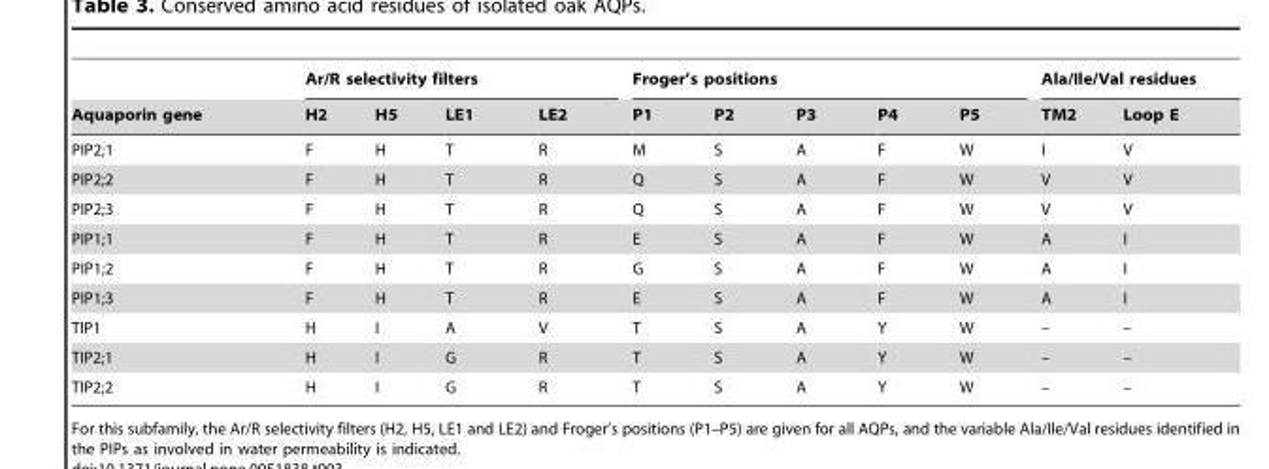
<table><thead><tr><td rowspan="2">Aquaporin gene</td><td colspan="4">Ar/R selectivity filters</td><td colspan="5">Froger’s positions</td><td colspan="2">Ala/Ile/Val residues</td></tr><tr><td>H2</td><td>H5</td><td>LE1</td><td>LE2</td><td>P1</td><td>P2</td><td>P3</td><td>P4</td><td>P5</td><td>TM2</td><td>Loop E</td></tr></thead><tbody><tr><td>PIP2;1</td><td>F</td><td>H</td><td>T</td><td>R</td><td>M</td><td>S</td><td>A</td><td>F</td><td>W</td><td>I</td><td>V</td></tr><tr><td>PIP2;2</td><td>F</td><td>H</td><td>T</td><td>R</td><td>Q</td><td>S</td><td>A</td><td>F</td><td>W</td><td>V</td><td>V</td></tr><tr><td>PIP2;3</td><td>F</td><td>H</td><td>T</td><td>R</td><td>Q</td><td>S</td><td>A</td><td>F</td><td>W</td><td>V</td><td>V</td></tr><tr><td>PIP1;1</td><td>F</td><td>H</td><td>T</td><td>R</td><td>E</td><td>S</td><td>A</td><td>F</td><td>W</td><td>A</td><td>I</td></tr><tr><td>PIP1;2</td><td>F</td><td>H</td><td>T</td><td>R</td><td>G</td><td>S</td><td>A</td><td>F</td><td>W</td><td>A</td><td>I</td></tr><tr><td>PIP1;3</td><td>F</td><td>H</td><td>T</td><td>R</td><td>E</td><td>S</td><td>A</td><td>F</td><td>W</td><td>A</td><td>I</td></tr><tr><td>TIP1</td><td>H</td><td>I</td><td>A</td><td>V</td><td>T</td><td>S</td><td>A</td><td>Y</td><td>W</td><td>–</td><td>–</td></tr><tr><td>TIP2;1</td><td>H</td><td>I</td><td>G</td><td>R</td><td>T</td><td>S</td><td>A</td><td>Y</td><td>W</td><td>–</td><td>–</td></tr><tr><td>TIP2;2</td><td>H</td><td>I</td><td>G</td><td>R</td><td>T</td><td>S</td><td>A</td><td>Y</td><td>W</td><td>–</td><td>–</td></tr></tbody></table>